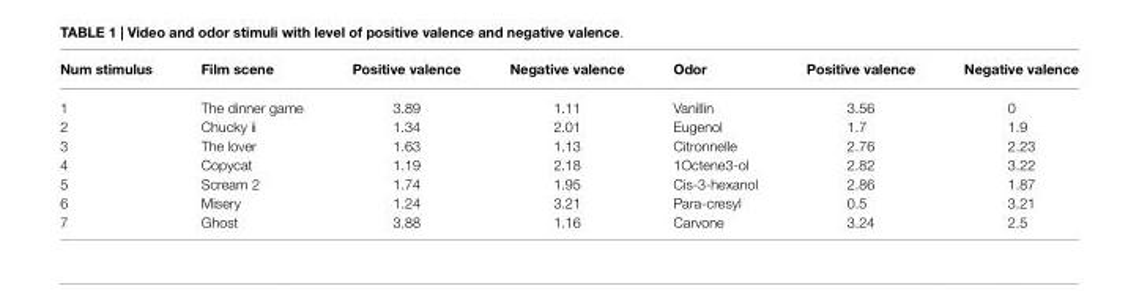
<table><thead><tr><td>Num stimulus</td><td>Film scene</td><td>Positive valence</td><td>Negative valence</td><td>Odor</td><td>Positive valence</td><td>Negative valence</td></tr></thead><tbody><tr><td>1</td><td>The dinner game</td><td>3.89</td><td>1.11</td><td>Vanillin</td><td>3.56</td><td>0</td></tr><tr><td>2</td><td>Chucky ii</td><td>1.34</td><td>2.01</td><td>Eugenol</td><td>1.7</td><td>1.9</td></tr><tr><td>3</td><td>The lover</td><td>1.63</td><td>1.13</td><td>Citronnelle</td><td>2.76</td><td>2.23</td></tr><tr><td>4</td><td>Copycat</td><td>1.19</td><td>2.18</td><td>1Octene3-ol</td><td>2.82</td><td>3.22</td></tr><tr><td>5</td><td>Scream 2</td><td>1.74</td><td>1.95</td><td>Cis-3-hexanol</td><td>2.86</td><td>1.87</td></tr><tr><td>6</td><td>Misery</td><td>1.24</td><td>3.21</td><td>Para-cresyl</td><td>0.5</td><td>3.21</td></tr><tr><td>7</td><td>Ghost</td><td>3.88</td><td>1.16</td><td>Carvone</td><td>3.24</td><td>2.5</td></tr></tbody></table>